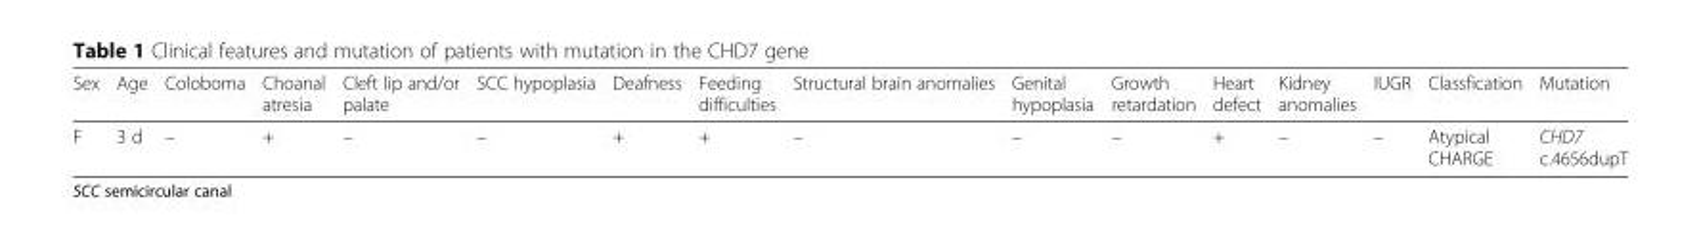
<table><thead><tr><td>Sex</td><td>Age</td><td>Coloboma</td><td>Choanal atresia</td><td>Cleft lip and/or palate</td><td>SCC hypoplasia</td><td>Deafness</td><td>Feeding difficulties</td><td>Structural brain anomalies</td><td>Genital hypoplasia</td><td>Growth retardation</td><td>Heart defect</td><td>Kidney anomalies</td><td>IUGR</td><td>Classfication</td><td>Mutation</td></tr></thead><tbody><tr><td>F</td><td>3 d</td><td>–</td><td>+</td><td>–</td><td>–</td><td>+</td><td>+</td><td>–</td><td>–</td><td>–</td><td>+</td><td>–</td><td>–</td><td>Atypical CHARGE</td><td>CHD7 c.4656dupT</td></tr></tbody></table>